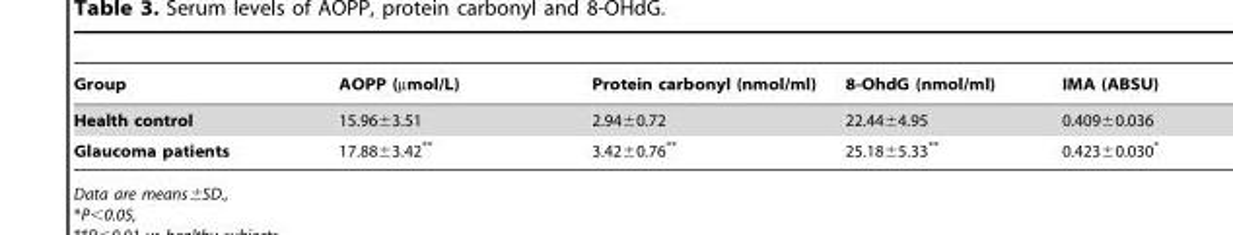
<table><thead><tr><td>Group</td><td>AOPP (µmol/L)</td><td>Protein carbonyl (nmol/ml)</td><td>8-OhdG (nmol/ml)</td><td>IMA (ABSU)</td></tr></thead><tbody><tr><td>Health control</td><td>15.96±3.51</td><td>2.94±0.72</td><td>22.44±4.95</td><td>0.409±0.036</td></tr><tr><td>Glaucoma patients</td><td>17.88±3.42**</td><td>3.42±0.76**</td><td>25.18±5.33**</td><td>0.423±0.030*</td></tr></tbody></table>